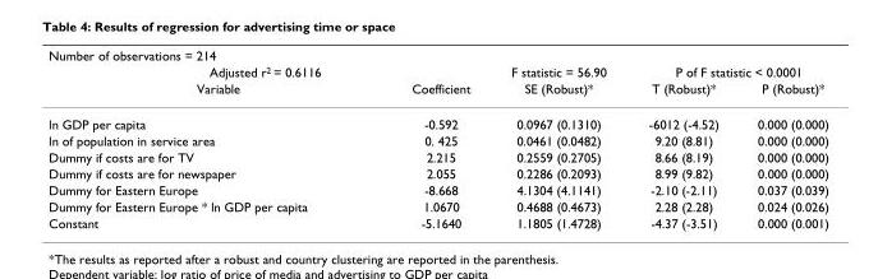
<table><thead><tr><td colspan="5">Number of observations = 214</td></tr><tr><td colspan="2">Adjusted r<sup>2</sup> = 0.6116</td><td rowspan="2">F statistic = 56.90 SE (Robust)*</td><td colspan="2">P of F statistic &lt; 0.0001</td></tr><tr><td>Variable</td><td>Coefficient</td><td>T (Robust)*</td><td>P (Robust)*</td></tr></thead><tbody><tr><td>ln GDP per capita</td><td>-0.592</td><td>0.0967 (0.1310)</td><td>-6012 (-4.52)</td><td>0.000 (0.000)</td></tr><tr><td>ln of population in service area</td><td>0. 425</td><td>0.0461 (0.0482)</td><td>9.20 (8.81)</td><td>0.000 (0.000)</td></tr><tr><td>Dummy if costs are for TV</td><td>2.215</td><td>0.2559 (0.2705)</td><td>8.66 (8.19)</td><td>0.000 (0.000)</td></tr><tr><td>Dummy if costs are for newspaper</td><td>2.055</td><td>0.2286 (0.2093)</td><td>8.99 (9.82)</td><td>0.000 (0.000)</td></tr><tr><td>Dummy for Eastern Europe</td><td>-8.668</td><td>4.1304 (4.1141)</td><td>-2.10 (-2.11)</td><td>0.037 (0.039)</td></tr><tr><td>Dummy for Eastern Europe * ln GDP per capita</td><td>1.0670</td><td>0.4688 (0.4673)</td><td>2.28 (2.28)</td><td>0.024 (0.026)</td></tr><tr><td>Constant</td><td>-5.1640</td><td>1.1805 (1.4728)</td><td>-4.37 (-3.51)</td><td>0.000 (0.001)</td></tr></tbody></table>